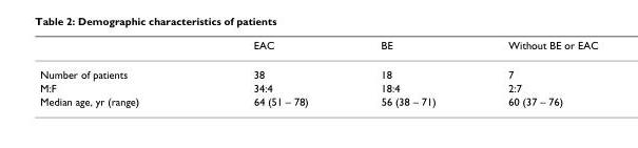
<table><thead><tr><td></td><td>EAC</td><td>BE</td><td>Without BE or EAC</td></tr></thead><tbody><tr><td>Number of patients</td><td>38</td><td>18</td><td>7</td></tr><tr><td>M:F</td><td>34:4</td><td>18:4</td><td>2:7</td></tr><tr><td>Median age, yr (range)</td><td>64 (51 – 78)</td><td>56 (38 – 71)</td><td>60 (37 – 76)</td></tr></tbody></table>